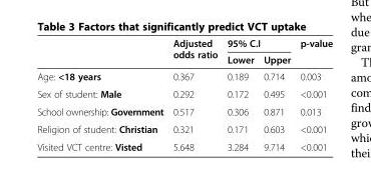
<table><thead><tr><td rowspan="2"></td><td rowspan="2">Adjusted odds ratio</td><td colspan="2">95% C.I</td><td rowspan="2">p-value</td></tr><tr><td>Lower</td><td>Upper</td></tr></thead><tbody><tr><td>Age: &lt;18 years</td><td>0.367</td><td>0.189</td><td>0.714</td><td>0.003</td></tr><tr><td>Sex of student: Male</td><td>0.292</td><td>0.172</td><td>0.495</td><td>&lt;0.001</td></tr><tr><td>School ownership: Government</td><td>0.517</td><td>0.306</td><td>0.871</td><td>0.013</td></tr><tr><td>Religion of student: Christian</td><td>0.321</td><td>0.171</td><td>0.603</td><td>&lt;0.001</td></tr><tr><td>Visited VCT centre: Visted</td><td>5.648</td><td>3.284</td><td>9.714</td><td>&lt;0.001</td></tr></tbody></table>